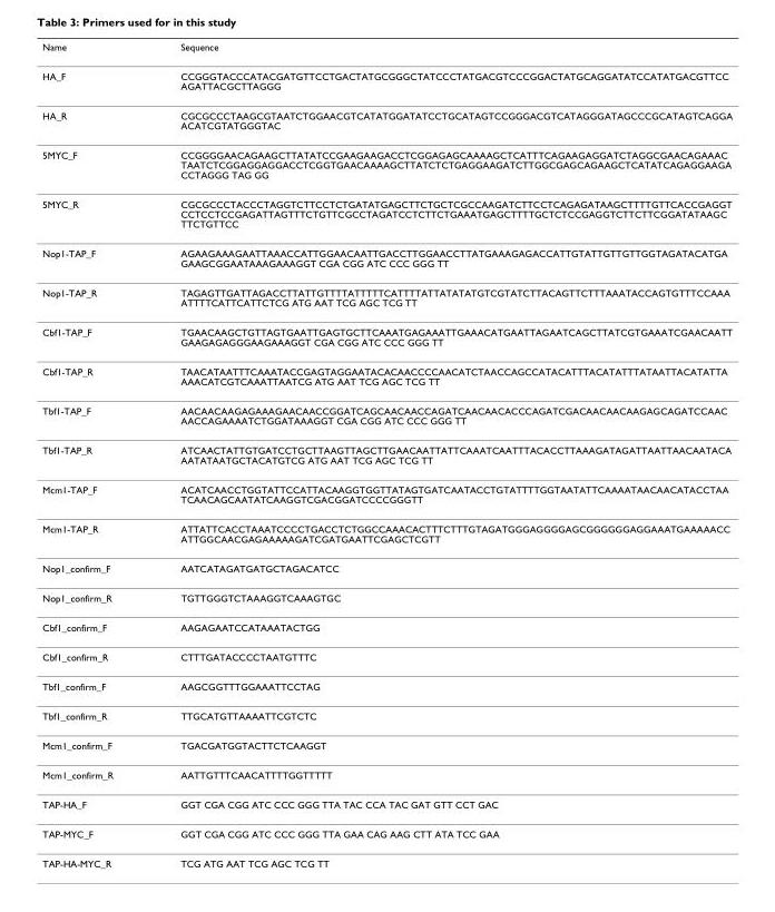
<table><thead><tr><td>Name</td><td>Sequence</td></tr></thead><tbody><tr><td>HA_F</td><td>CCGGGTACCCATACGATGTTCCTGACTATGCGGGCTATCCCTATGACGTCCCGGACTATGCAGGATATCCATATGACGTTCC AGATTACGCTTAGGG</td></tr><tr><td>HA_R</td><td>CGCGCCCTAAGCGTAATCTGGAACGTCATATGGATATCCTGCATAGTCCGGGACGTCATAGGGATAGCCCGCATAGTCAGGA ACATCGTATGGGTAC</td></tr><tr><td>5MYC_F</td><td>CCGGGGAACAGAAGCTTATATCCGAAGAAGACCTCGGAGAGCAAAAGCTCATTTCAGAAGAGGATCTAGGCGAACAGAAAC TAATCTCGGAGGAGGACCTCGGTGAACAAAAGCTTATCTCTGAGGAAGATCTTGGCGAGCAGAAGCTCATATCAGAGGAAGA CCTAGGG TAG GG</td></tr><tr><td>5MYC_R</td><td>CGCGCCCTACCCTAGGTCTTCCTCTGATATGAGCTTCTGCTCGCCAAGATCTTCCTCAGAGATAAGCTTTTGTTCACCGAGGT CCTCCTCCGAGATTAGTTTCTGTTCGCCTAGATCCTCTTCTGAAATGAGCTTTTGCTCTCCGAGGTCTTCTTCGGATATAAGC TTCTGTTCC</td></tr><tr><td>Nop1-TAP_F</td><td>AGAAGAAAGAATTAAACCATTGGAACAATTGACCTTGGAACCTTATGAAAGAGACCATTGTATTGTTGTTGGTAGATACATGA GAAGCGGAATAAAGAAAGGT CGA CGG ATC CCC GGG TT</td></tr><tr><td>Nop1-TAP_R</td><td>TAGAGTTGATTAGACCTTATTGTTTTATTTTTCATTTTATTATATATGTCGTATCTTACAGTTCTTTAAATACCAGTGTTTCCAAA ATTTTCATTCATTCTCG ATG AAT TCG AGC TCG TT</td></tr><tr><td>Cbf1-TAP_F</td><td>TGAACAAGCTGTTAGTGAATTGAGTGCTTCAAATGAGAAATTGAAACATGAATTAGAATCAGCTTATCGTGAAATCGAACAATT GAAGAGAGGGAAGAAAGGT CGA CGG ATC CCC GGG TT</td></tr><tr><td>Cbf1-TAP_R</td><td>TAACATAATTTCAAATACCGAGTAGGAATACACAACCCCAACATCTAACCAGCCATACATTTACATATTTATAATTACATATTA AAACATCGTCAAATTAATCG ATG AAT TCG AGC TCG TT</td></tr><tr><td>Tbf1-TAP_F</td><td>AACAACAAGAGAAAGAACAACCGGATCAGCAACAACCAGATCAACAACACCCAGATCGACAACAACAAGAGCAGATCCAAC AACCAGAAAATCTGGATAAAGGT CGA CGG ATC CCC GGG TT</td></tr><tr><td>Tbf1-TAP_R</td><td>ATCAACTATTGTGATCCTGCTTAAGTTAGCTTGAACAATTATTCAAATCAATTTACACCTTAAAGATAGATTAATTAACAATACA AATATAATGCTACATGTCG ATG AAT TCG AGC TCG TT</td></tr><tr><td>Mcm1-TAP_F</td><td>ACATCAACCTGGTATTCCATTACAAGGTGGTTATAGTGATCAATACCTGTATTTTGGTAATATTCAAAATAACAACATACCTAA TCAACAGCAATATCAAGGTCGACGGATCCCCGGGTT</td></tr><tr><td>Mcm1-TAP_R</td><td>ATTATTCACCTAAATCCCCTGACCTCTGGCCAAACACTTTCTTTGTAGATGGGAGGGGAGCGGGGGGAGGAAATGAAAAACC ATTGGCAACGAGAAAAAGATCGATGAATTCGAGCTCGTT</td></tr><tr><td>Nop1_confirm_F</td><td>AATCATAGATGATGCTAGACATCC</td></tr><tr><td>Nop1_confirm_R</td><td>TGTTGGGTCTAAAGGTCAAAGTGC</td></tr><tr><td>Cbf1_confirm_F</td><td>AAGAGAATCCATAAATACTGG</td></tr><tr><td>Cbf1_confirm_R</td><td>CTTTGATACCCCTAATGTTTC</td></tr><tr><td>Tbf1_confirm_F</td><td>AAGCGGTTTGGAAATTCCTAG</td></tr><tr><td>Tbf1_confirm_R</td><td>TTGCATGTTAAAATTCGTCTC</td></tr><tr><td>Mcm1_confirm_F</td><td>TGACGATGGTACTTCTCAAGGT</td></tr><tr><td>Mcm1_confirm_R</td><td>AATTGTTTCAACATTTTGGTTTTT</td></tr><tr><td>TAP-HA_F</td><td>GGT CGA CGG ATC CCC GGG TTA TAC CCA TAC GAT GTT CCT GAC</td></tr><tr><td>TAP-MYC_F</td><td>GGT CGA CGG ATC CCC GGG TTA GAA CAG AAG CTT ATA TCC GAA</td></tr><tr><td>TAP-HA-MYC_R</td><td>TCG ATG AAT TCG AGC TCG TT</td></tr></tbody></table>